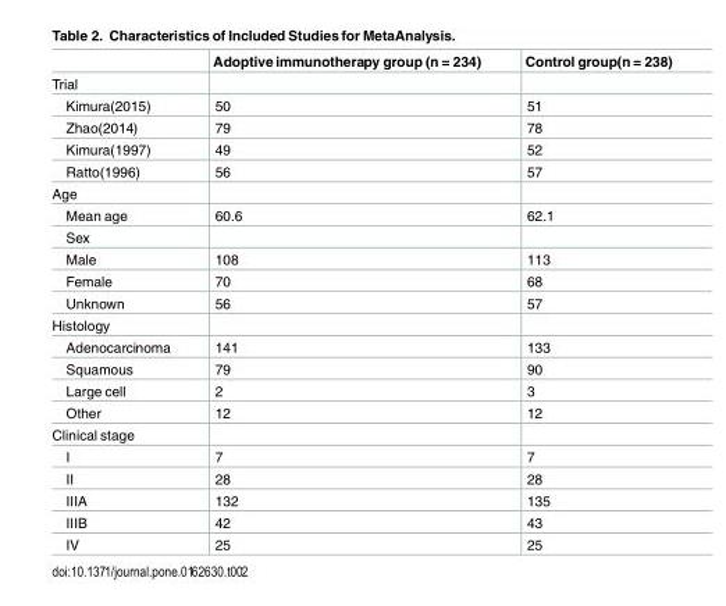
<table><thead><tr><td></td><td>Adoptive immunotherapy group (n = 234)</td><td>Control group(n = 238)</td></tr></thead><tbody><tr><td colspan="3">Trial</td></tr><tr><td>Kimura(2015)</td><td>50</td><td>51</td></tr><tr><td>Zhao(2014)</td><td>79</td><td>78</td></tr><tr><td>Kimura(1997)</td><td>49</td><td>52</td></tr><tr><td>Ratto(1996)</td><td>56</td><td>57</td></tr><tr><td colspan="3">Age</td></tr><tr><td>Mean age</td><td>60.6</td><td>62.1</td></tr><tr><td colspan="3">Sex</td></tr><tr><td>Male</td><td>108</td><td>113</td></tr><tr><td>Female</td><td>70</td><td>68</td></tr><tr><td>Unknown</td><td>56</td><td>57</td></tr><tr><td colspan="3">Histology</td></tr><tr><td>Adenocarcinoma</td><td>141</td><td>133</td></tr><tr><td>Squamous</td><td>79</td><td>90</td></tr><tr><td>Large cell</td><td>2</td><td>3</td></tr><tr><td>Other</td><td>12</td><td>12</td></tr><tr><td colspan="3">Clinical stage</td></tr><tr><td>I</td><td>7</td><td>7</td></tr><tr><td>II</td><td>28</td><td>28</td></tr><tr><td>IIIA</td><td>132</td><td>135</td></tr><tr><td>IIIB</td><td>42</td><td>43</td></tr><tr><td>IV</td><td>25</td><td>25</td></tr></tbody></table>